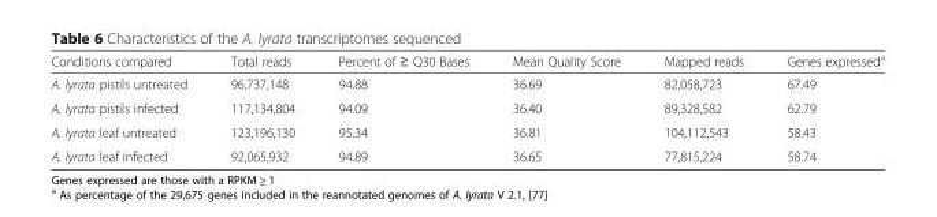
<table><thead><tr><td>Conditions compared</td><td>Total reads</td><td>Percent of ≥ Q30 Bases</td><td>Mean Quality Score</td><td>Mapped reads</td><td>Genes expressed<sup>a</sup></td></tr></thead><tbody><tr><td>A. lyrata pistils untreated</td><td>96,737,148</td><td>94.88</td><td>36.69</td><td>82,058,723</td><td>67.49</td></tr><tr><td>A. lyrata pistils infected</td><td>117,134,804</td><td>94.09</td><td>36.40</td><td>89,328,582</td><td>62.79</td></tr><tr><td>A. lyrata leaf untreated</td><td>123,196,130</td><td>95.34</td><td>36.81</td><td>104,112,543</td><td>58.43</td></tr><tr><td>A. lyrata leaf infected</td><td>92,065,932</td><td>94.89</td><td>36.65</td><td>77,815,224</td><td>58.74</td></tr></tbody></table>